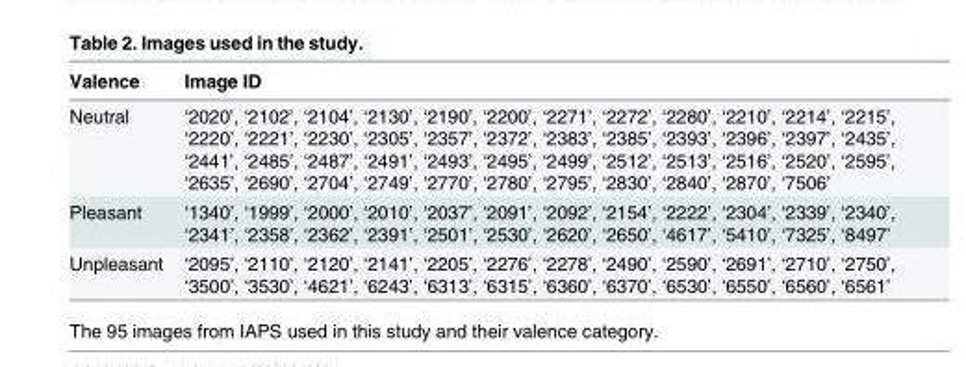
<table><thead><tr><td>Valence</td><td>Image ID</td></tr></thead><tbody><tr><td>Neutral</td><td>‘2020’, ‘2102’, ‘2104’, ‘2130’, ‘2190’, ‘2200’, ‘2271’, ‘2272’, ‘2280’, ‘2210’, ‘2214’, ‘2215’, ‘2220’, ‘2221’, ‘2230’, ‘2305’, ‘2357’, ‘2372’, ‘2383’, ‘2385’, ‘2393’, ‘2396’, ‘2397’, ‘2435’, ‘2441’, ‘2485’, ‘2487’, ‘2491’, ‘2493’, ‘2495’, ‘2499’, ‘2512’, ‘2513’, ‘2516’, ‘2520’, ‘2595’, ‘2635’, ‘2690’, ‘2704’, ‘2749’, ‘2770’, ‘2780’, ‘2795’, ‘2830’, ‘2840’, ‘2870’, ‘7506’</td></tr><tr><td>Pleasant</td><td>‘1340’, ‘1999’, ‘2000’, ‘2010’, ‘2037’, ‘2091’, ‘2092’, ‘2154’, ‘2222’, ‘2304’, ‘2339’, ‘2340’, ‘2341’, ‘2358’, ‘2362’, ‘2391’, ‘2501’, ‘2530’, ‘2620’, ‘2650’, ‘4617’, ‘5410’, ‘7325’, ‘8497’</td></tr><tr><td>Unpleasant</td><td>‘2095’, ‘2110’, ‘2120’, ‘2141’, ‘2205’, ‘2276’, ‘2278’, ‘2490’, ‘2590’, ‘2691’, ‘2710’, ‘2750’, ‘3500’, ‘3530’, ‘4621’, ‘6243’, ‘6313’, ‘6315’, ‘6360’, ‘6370’, ‘6530’, ‘6550’, ‘6560’, ‘6561’</td></tr></tbody></table>